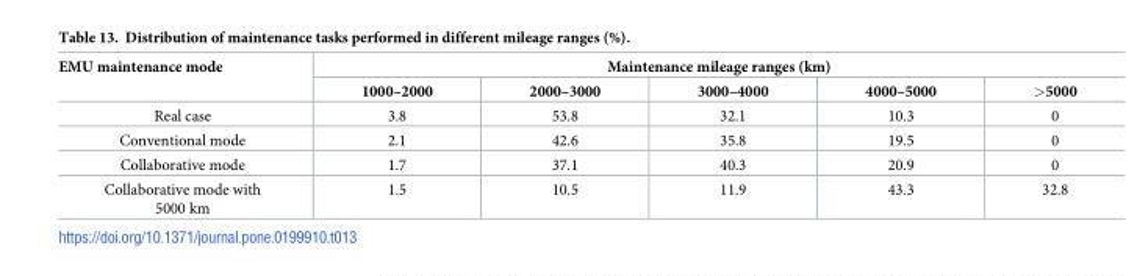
<table><thead><tr><td rowspan="2">EMU maintenance mode</td><td colspan="5">Maintenance mileage ranges (km)</td></tr><tr><td>1000–2000</td><td>2000–3000</td><td>3000–4000</td><td>4000–5000</td><td>&gt;5000</td></tr></thead><tbody><tr><td>Real case</td><td>3.8</td><td>53.8</td><td>32.1</td><td>10.3</td><td>0</td></tr><tr><td>Conventional mode</td><td>2.1</td><td>42.6</td><td>35.8</td><td>19.5</td><td>0</td></tr><tr><td>Collaborative mode</td><td>1.7</td><td>37.1</td><td>40.3</td><td>20.9</td><td>0</td></tr><tr><td>Collaborative mode with 5000 km</td><td>1.5</td><td>10.5</td><td>11.9</td><td>43.3</td><td>32.8</td></tr></tbody></table>